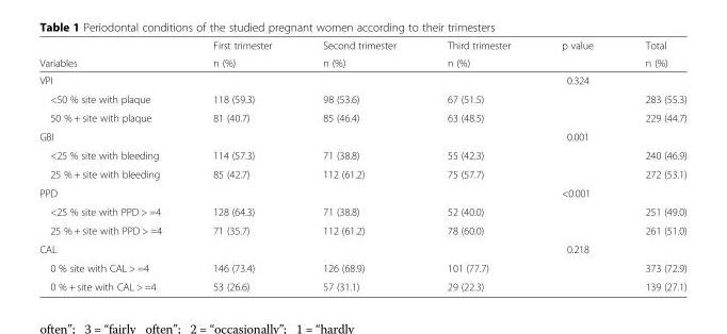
<table><thead><tr><td rowspan="2">Variables</td><td rowspan="2">First trimester n (%)</td><td rowspan="2">Second trimester n (%)</td><td rowspan="2">Third trimester n (%)</td><td rowspan="2">p value</td><td rowspan="2">Total n (%)</td></tr><tr></tr></thead><tbody><tr><td>VPI</td><td></td><td></td><td></td><td>0.324</td><td></td></tr><tr><td>&lt;50 % site with plaque</td><td>118 (59.3)</td><td>98 (53.6)</td><td>67 (51.5)</td><td></td><td>283 (55.3)</td></tr><tr><td>50 % + site with plaque</td><td>81 (40.7)</td><td>85 (46.4)</td><td>63 (48.5)</td><td></td><td>229 (44.7)</td></tr><tr><td>GBI</td><td></td><td></td><td></td><td>0.001</td><td></td></tr><tr><td>&lt;25 % site with bleeding</td><td>114 (57.3)</td><td>71 (38.8)</td><td>55 (42.3)</td><td></td><td>240 (46.9)</td></tr><tr><td>25 % + site with bleeding</td><td>85 (42.7)</td><td>112 (61.2)</td><td>75 (57.7)</td><td></td><td>272 (53.1)</td></tr><tr><td>PPD</td><td></td><td></td><td></td><td>&lt;0.001</td><td></td></tr><tr><td>&lt;25 % site with PPD &gt; =4</td><td>128 (64.3)</td><td>71 (38.8)</td><td>52 (40.0)</td><td></td><td>251 (49.0)</td></tr><tr><td>25 % + site with PPD &gt; =4</td><td>71 (35.7)</td><td>112 (61.2)</td><td>78 (60.0)</td><td></td><td>261 (51.0)</td></tr><tr><td>CAL</td><td></td><td></td><td></td><td>0.218</td><td></td></tr><tr><td>0 % site with CAL &gt; =4</td><td>146 (73.4)</td><td>126 (68.9)</td><td>101 (77.7)</td><td></td><td>373 (72.9)</td></tr><tr><td>0 % + site with CAL &gt; =4</td><td>53 (26.6)</td><td>57 (31.1)</td><td>29 (22.3)</td><td></td><td>139 (27.1)</td></tr></tbody></table>